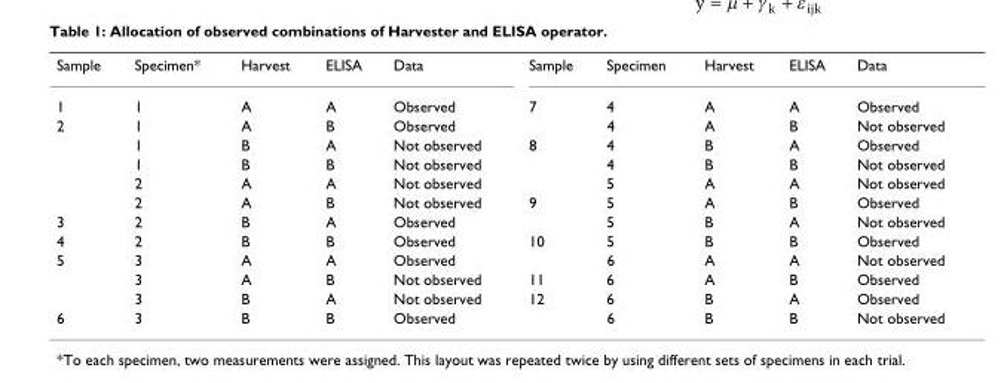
<table><tbody><tr><td>Sample</td><td>Specimen*</td><td>Harvest</td><td>ELISA</td><td>Data</td><td>Sample</td><td>Specimen</td><td>Harvest</td><td>ELISA</td><td>Data</td></tr><tr><td>1</td><td>1</td><td>A</td><td>A</td><td>Observed</td><td>7</td><td>4</td><td>A</td><td>A</td><td>Observed</td></tr><tr><td rowspan="5">2</td><td>1</td><td>A</td><td>B</td><td>Observed</td><td></td><td>4</td><td>A</td><td>B</td><td>Not observed</td></tr><tr><td>1</td><td>B</td><td>A</td><td>Not observed</td><td>8</td><td>4</td><td>B</td><td>A</td><td>Observed</td></tr><tr><td>1</td><td>B</td><td>B</td><td>Not observed</td><td></td><td>4</td><td>B</td><td>B</td><td>Not observed</td></tr><tr><td>2</td><td>A</td><td>A</td><td>Not observed</td><td></td><td>5</td><td>A</td><td>A</td><td>Not observed</td></tr><tr><td>2</td><td>A</td><td>B</td><td>Not observed</td><td>9</td><td>5</td><td>A</td><td>B</td><td>Observed</td></tr><tr><td>3</td><td>2</td><td>B</td><td>A</td><td>Observed</td><td></td><td>5</td><td>B</td><td>A</td><td>Not observed</td></tr><tr><td>4</td><td>2</td><td>B</td><td>B</td><td>Observed</td><td>10</td><td>5</td><td>B</td><td>B</td><td>Observed</td></tr><tr><td rowspan="3">5</td><td>3</td><td>A</td><td>A</td><td>Observed</td><td></td><td>6</td><td>A</td><td>A</td><td>Not observed</td></tr><tr><td>3</td><td>A</td><td>B</td><td>Not observed</td><td>11</td><td>6</td><td>A</td><td>B</td><td>Observed</td></tr><tr><td>3</td><td>B</td><td>A</td><td>Not observed</td><td>12</td><td>6</td><td>B</td><td>A</td><td>Observed</td></tr><tr><td>6</td><td>3</td><td>B</td><td>B</td><td>Observed</td><td></td><td>6</td><td>B</td><td>B</td><td>Not observed</td></tr></tbody></table>